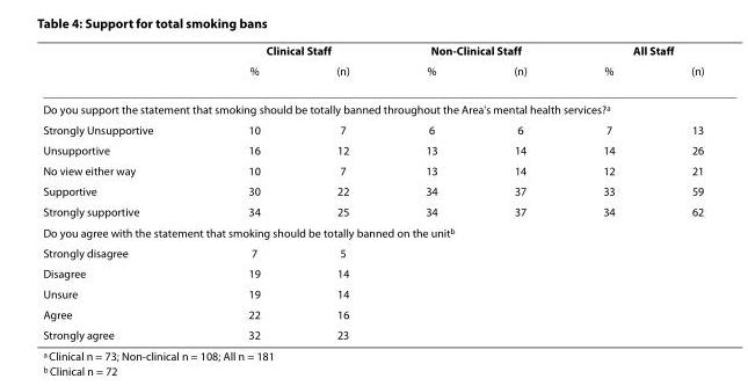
<table><thead><tr><td rowspan="2"></td><td colspan="2">Clinical Staff</td><td colspan="2">Non-Clinical Staff</td><td colspan="2">All Staff</td></tr><tr><td>%</td><td>(n)</td><td>%</td><td>(n)</td><td>%</td><td>(n)</td></tr></thead><tbody><tr><td colspan="7">Do you support the statement that smoking should be totally banned throughout the Area&#x27;s mental health services?<sup>a</sup></td></tr><tr><td>Strongly Unsupportive</td><td>10</td><td>7</td><td>6</td><td>6</td><td>7</td><td>13</td></tr><tr><td>Unsupportive</td><td>16</td><td>12</td><td>13</td><td>14</td><td>14</td><td>26</td></tr><tr><td>No view either way</td><td>10</td><td>7</td><td>13</td><td>14</td><td>12</td><td>21</td></tr><tr><td>Supportive</td><td>30</td><td>22</td><td>34</td><td>37</td><td>33</td><td>59</td></tr><tr><td>Strongly supportive</td><td>34</td><td>25</td><td>34</td><td>37</td><td>34</td><td>62</td></tr><tr><td colspan="7">Do you agree with the statement that smoking should be totally banned on the unit<sup>b</sup></td></tr><tr><td>Strongly disagree</td><td>7</td><td>5</td><td></td><td></td><td></td><td></td></tr><tr><td>Disagree</td><td>19</td><td>14</td><td></td><td></td><td></td><td></td></tr><tr><td>Unsure</td><td>19</td><td>14</td><td></td><td></td><td></td><td></td></tr><tr><td>Agree</td><td>22</td><td>16</td><td></td><td></td><td></td><td></td></tr><tr><td>Strongly agree</td><td>32</td><td>23</td><td></td><td></td><td></td><td></td></tr></tbody></table>